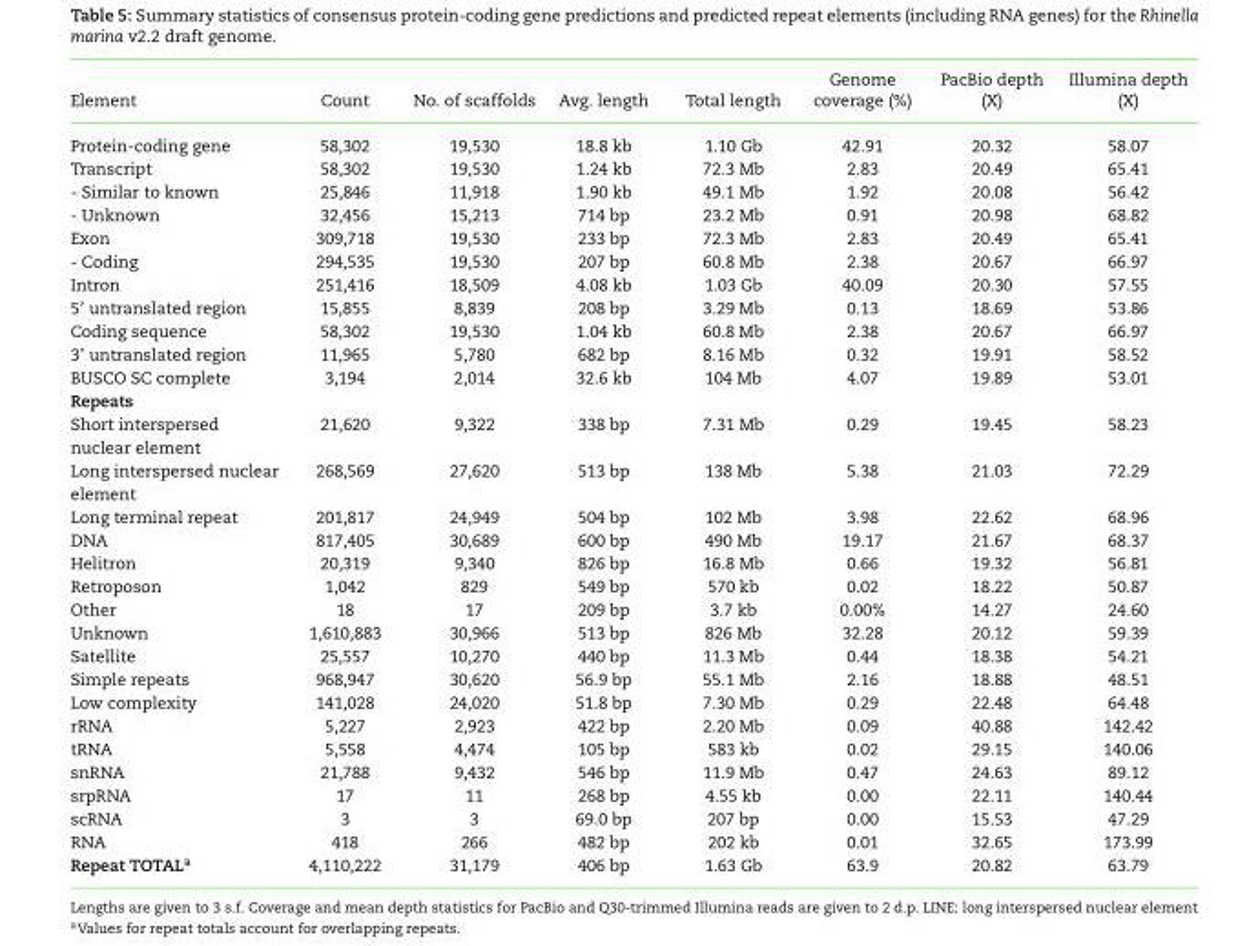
<table><thead><tr><td>Element</td><td>Count</td><td>No. of scaffolds</td><td>Avg. length</td><td>Total length</td><td>Genome coverage (%)</td><td>PacBio depth (X)</td><td>Illumina depth (X)</td></tr></thead><tbody><tr><td>Protein-coding gene</td><td>58,302</td><td>19,530</td><td>18.8 kb</td><td>1.10 Gb</td><td>42.91</td><td>20.32</td><td>58.07</td></tr><tr><td>Transcript</td><td>58,302</td><td>19,530</td><td>1.24 kb</td><td>72.3 Mb</td><td>2.83</td><td>20.49</td><td>65.41</td></tr><tr><td>- Similar to known</td><td>25,846</td><td>11,918</td><td>1.90 kb</td><td>49.1 Mb</td><td>1.92</td><td>20.08</td><td>56.42</td></tr><tr><td>- Unknown</td><td>32,456</td><td>15,213</td><td>714 bp</td><td>23.2 Mb</td><td>0.91</td><td>20.98</td><td>68.82</td></tr><tr><td>Exon</td><td>309,718</td><td>19,530</td><td>233 bp</td><td>72.3 Mb</td><td>2.83</td><td>20.49</td><td>65.41</td></tr><tr><td>- Coding</td><td>294,535</td><td>19,530</td><td>207 bp</td><td>60.8 Mb</td><td>2.38</td><td>20.67</td><td>66.97</td></tr><tr><td>Intron</td><td>251,416</td><td>18,509</td><td>4.08 kb</td><td>1.03 Gb</td><td>40.09</td><td>20.30</td><td>57.55</td></tr><tr><td>5’ untranslated region</td><td>15,855</td><td>8,839</td><td>208 bp</td><td>3.29 Mb</td><td>0.13</td><td>18.69</td><td>53.86</td></tr><tr><td>Coding sequence</td><td>58,302</td><td>19,530</td><td>1.04 kb</td><td>60.8 Mb</td><td>2.38</td><td>20.67</td><td>66.97</td></tr><tr><td>3’ untranslated region</td><td>11,965</td><td>5,780</td><td>682 bp</td><td>8.16 Mb</td><td>0.32</td><td>19.91</td><td>58.52</td></tr><tr><td>BUSCO SC complete</td><td>3,194</td><td>2,014</td><td>32.6 kb</td><td>104 Mb</td><td>4.07</td><td>19.89</td><td>53.01</td></tr><tr><td colspan="8">Repeats</td></tr><tr><td>Short interspersed nuclear element</td><td>21,620</td><td>9,322</td><td>338 bp</td><td>7.31 Mb</td><td>0.29</td><td>19.45</td><td>58.23</td></tr><tr><td>Long interspersed nuclear element</td><td>268,569</td><td>27,620</td><td>513 bp</td><td>138 Mb</td><td>5.38</td><td>21.03</td><td>72.29</td></tr><tr><td>Long terminal repeat</td><td>201,817</td><td>24,949</td><td>504 bp</td><td>102 Mb</td><td>3.98</td><td>22.62</td><td>68.96</td></tr><tr><td>DNA</td><td>817,405</td><td>30,689</td><td>600 bp</td><td>490 Mb</td><td>19.17</td><td>21.67</td><td>68.37</td></tr><tr><td>Helitron</td><td>20,319</td><td>9,340</td><td>826 bp</td><td>16.8 Mb</td><td>0.66</td><td>19.32</td><td>56.81</td></tr><tr><td>Retroposon</td><td>1,042</td><td>829</td><td>549 bp</td><td>570 kb</td><td>0.02</td><td>18.22</td><td>50.87</td></tr><tr><td>Other</td><td>18</td><td>17</td><td>209 bp</td><td>3.7 kb</td><td>0.00%</td><td>14.27</td><td>24.60</td></tr><tr><td>Unknown</td><td>1,610,883</td><td>30,966</td><td>513 bp</td><td>826 Mb</td><td>32.28</td><td>20.12</td><td>59.39</td></tr><tr><td>Satellite</td><td>25,557</td><td>10,270</td><td>440 bp</td><td>11.3 Mb</td><td>0.44</td><td>18.38</td><td>54.21</td></tr><tr><td>Simple repeats</td><td>968,947</td><td>30,620</td><td>56.9 bp</td><td>55.1 Mb</td><td>2.16</td><td>18.88</td><td>48.51</td></tr><tr><td>Low complexity</td><td>141,028</td><td>24,020</td><td>51.8 bp</td><td>7.30 Mb</td><td>0.29</td><td>22.48</td><td>64.48</td></tr><tr><td>rRNA</td><td>5,227</td><td>2,923</td><td>422 bp</td><td>2.20 Mb</td><td>0.09</td><td>40.88</td><td>142.42</td></tr><tr><td>tRNA</td><td>5,558</td><td>4,474</td><td>105 bp</td><td>583 kb</td><td>0.02</td><td>29.15</td><td>140.06</td></tr><tr><td>snRNA</td><td>21,788</td><td>9,432</td><td>546 bp</td><td>11.9 Mb</td><td>0.47</td><td>24.63</td><td>89.12</td></tr><tr><td>srpRNA</td><td>17</td><td>11</td><td>268 bp</td><td>4.55 kb</td><td>0.00</td><td>22.11</td><td>140.44</td></tr><tr><td>scRNA</td><td>3</td><td>3</td><td>69.0 bp</td><td>207 bp</td><td>0.00</td><td>15.53</td><td>47.29</td></tr><tr><td>RNA</td><td>418</td><td>266</td><td>482 bp</td><td>202 kb</td><td>0.01</td><td>32.65</td><td>173.99</td></tr><tr><td>Repeat TOTAL<sup>a</sup></td><td>4,110,222</td><td>31,179</td><td>406 bp</td><td>1.63 Gb</td><td>63.9</td><td>20.82</td><td>63.79</td></tr></tbody></table>